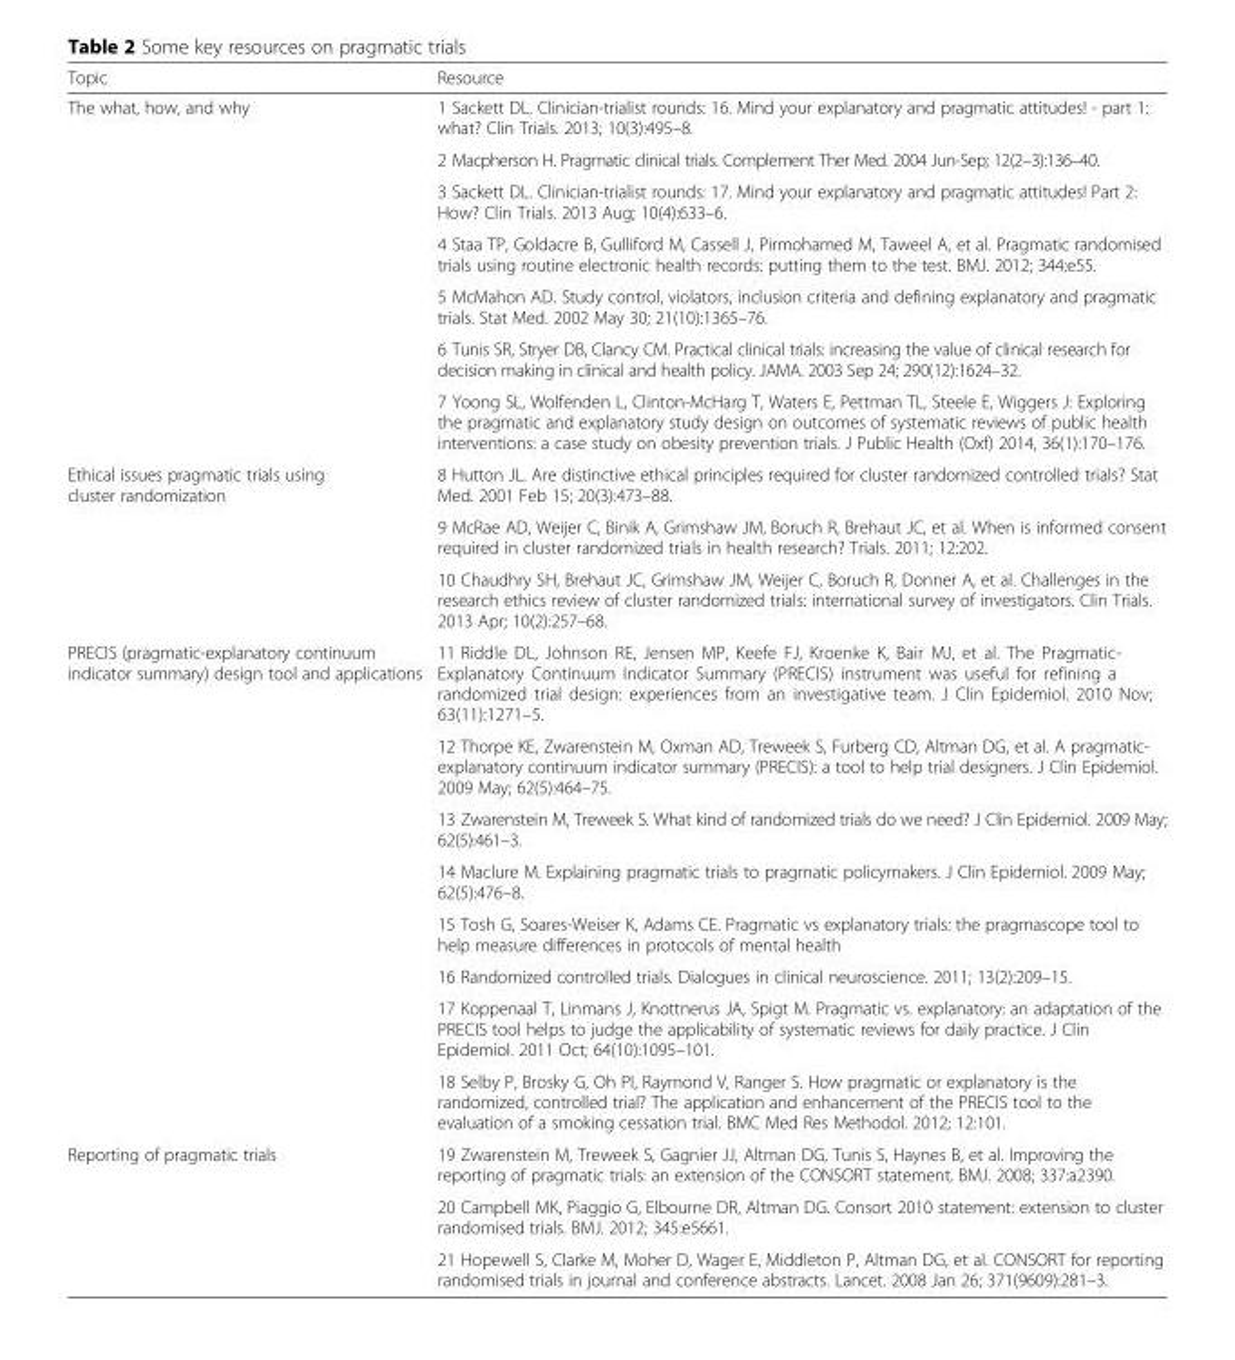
<table><thead><tr><td>Topic</td><td>Resource</td></tr></thead><tbody><tr><td rowspan="7">The what, how, and why</td><td>1 Sackett DL. Clinician-trialist rounds: 16. Mind your explanatory and pragmatic attitudes! - part 1: what? Clin Trials. 2013; 10(3):495–8.</td></tr><tr><td>2 Macpherson H. Pragmatic clinical trials. Complement Ther Med. 2004 Jun-Sep; 12(2–3):136–40.</td></tr><tr><td>3 Sackett DL. Clinician-trialist rounds: 17. Mind your explanatory and pragmatic attitudes! Part 2: How? Clin Trials. 2013 Aug; 10(4):633–6.</td></tr><tr><td>4 Staa TP, Goldacre B, Gulliford M, Cassell J, Pirmohamed M, Taweel A, et al. Pragmatic randomised trials using routine electronic health records: putting them to the test. BMJ. 2012; 344:e55.</td></tr><tr><td>5 McMahon AD. Study control, violators, inclusion criteria and defining explanatory and pragmatic trials. Stat Med. 2002 May 30; 21(10):1365–76.</td></tr><tr><td>6 Tunis SR, Stryer DB, Clancy CM. Practical clinical trials: increasing the value of clinical research for decision making in clinical and health policy. JAMA. 2003 Sep 24; 290(12):1624–32.</td></tr><tr><td>7 Yoong SL, Wolfenden L, Clinton-McHarg T, Waters E, Pettman TL, Steele E, Wiggers J: Exploring the pragmatic and explanatory study design on outcomes of systematic reviews of public health interventions: a case study on obesity prevention trials. J Public Health (Oxf) 2014, 36(1):170–176.</td></tr><tr><td rowspan="3">Ethical issues pragmatic trials using cluster randomization</td><td>8 Hutton JL. Are distinctive ethical principles required for cluster randomized controlled trials? Stat Med. 2001 Feb 15; 20(3):473–88.</td></tr><tr><td>9 McRae AD, Weijer C, Binik A, Grimshaw JM, Boruch R, Brehaut JC, et al. When is informed consent required in cluster randomized trials in health research? Trials. 2011; 12:202.</td></tr><tr><td>10 Chaudhry SH, Brehaut JC, Grimshaw JM, Weijer C, Boruch R, Donner A, et al. Challenges in the research ethics review of cluster randomized trials: international survey of investigators. Clin Trials. 2013 Apr; 10(2):257–68.</td></tr><tr><td rowspan="8">PRECIS (pragmatic-explanatory continuum indicator summary) design tool and applications</td><td>11 Riddle DL, Johnson RE, Jensen MP, Keefe FJ, Kroenke K, Bair MJ, et al. The Pragmatic- Explanatory Continuum Indicator Summary (PRECIS) instrument was useful for refining a randomized trial design: experiences from an investigative team. J Clin Epidemiol. 2010 Nov; 63(11):1271–5.</td></tr><tr><td>12 Thorpe KE, Zwarenstein M, Oxman AD, Treweek S, Furberg CD, Altman DG, et al. A pragmatic- explanatory continuum indicator summary (PRECIS): a tool to help trial designers. J Clin Epidemiol. 2009 May; 62(5):464–75.</td></tr><tr><td>13 Zwarenstein M, Treweek S. What kind of randomized trials do we need? J Clin Epidemiol. 2009 May; 62(5):461–3.</td></tr><tr><td>14 Maclure M. Explaining pragmatic trials to pragmatic policymakers. J Clin Epidemiol. 2009 May; 62(5):476–8.</td></tr><tr><td>15 Tosh G, Soares-Weiser K, Adams CE. Pragmatic vs explanatory trials: the pragmascope tool to help measure differences in protocols of mental health</td></tr><tr><td>16 Randomized controlled trials. Dialogues in clinical neuroscience. 2011; 13(2):209–15.</td></tr><tr><td>17 Koppenaal T, Linmans J, Knottnerus JA, Spigt M. Pragmatic vs. explanatory: an adaptation of the PRECIS tool helps to judge the applicability of systematic reviews for daily practice. J Clin Epidemiol. 2011 Oct; 64(10):1095–101.</td></tr><tr><td>18 Selby P, Brosky G, Oh PI, Raymond V, Ranger S. How pragmatic or explanatory is the randomized, controlled trial? The application and enhancement of the PRECIS tool to the evaluation of a smoking cessation trial. BMC Med Res Methodol. 2012; 12:101.</td></tr><tr><td rowspan="3">Reporting of pragmatic trials</td><td>19 Zwarenstein M, Treweek S, Gagnier JJ, Altman DG, Tunis S, Haynes B, et al. Improving the reporting of pragmatic trials: an extension of the CONSORT statement. BMJ. 2008; 337:a2390.</td></tr><tr><td>20 Campbell MK, Piaggio G, Elbourne DR, Altman DG. Consort 2010 statement: extension to cluster randomised trials. BMJ. 2012; 345:e5661.</td></tr><tr><td>21 Hopewell S, Clarke M, Moher D, Wager E, Middleton P, Altman DG, et al. CONSORT for reporting randomised trials in journal and conference abstracts. Lancet. 2008 Jan 26; 371(9609):281–3.</td></tr></tbody></table>